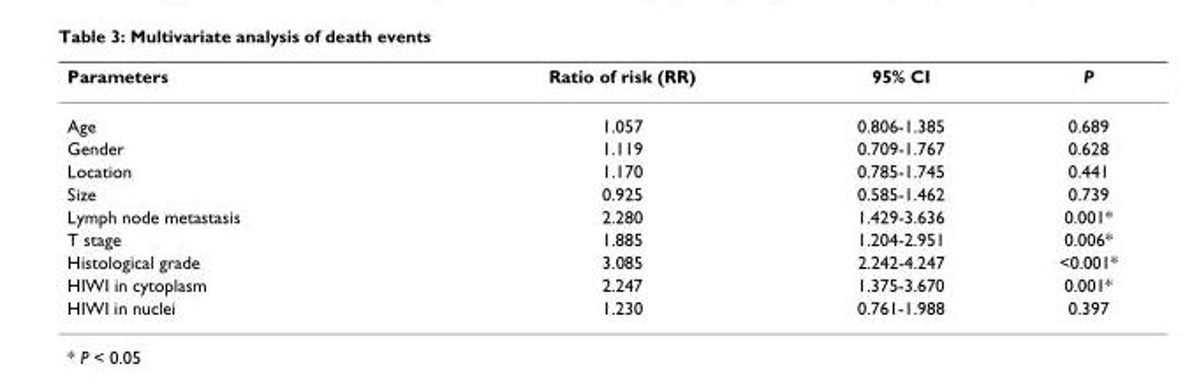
<table><thead><tr><td>Parameters</td><td>Ratio of risk (RR)</td><td>95% CI</td><td>P</td></tr></thead><tbody><tr><td>Age</td><td>1.057</td><td>0.806-1.385</td><td>0.689</td></tr><tr><td>Gender</td><td>1.119</td><td>0.709-1.767</td><td>0.628</td></tr><tr><td>Location</td><td>1.170</td><td>0.785-1.745</td><td>0.441</td></tr><tr><td>Size</td><td>0.925</td><td>0.585-1.462</td><td>0.739</td></tr><tr><td>Lymph node metastasis</td><td>2.280</td><td>1.429-3.636</td><td>0.001*</td></tr><tr><td>T stage</td><td>1.885</td><td>1.204-2.951</td><td>0.006*</td></tr><tr><td>Histological grade</td><td>3.085</td><td>2.242-4.247</td><td>&lt;0.001*</td></tr><tr><td>HIWI in cytoplasm</td><td>2.247</td><td>1.375-3.670</td><td>0.001*</td></tr><tr><td>HIWI in nuclei</td><td>1.230</td><td>0.761-1.988</td><td>0.397</td></tr></tbody></table>